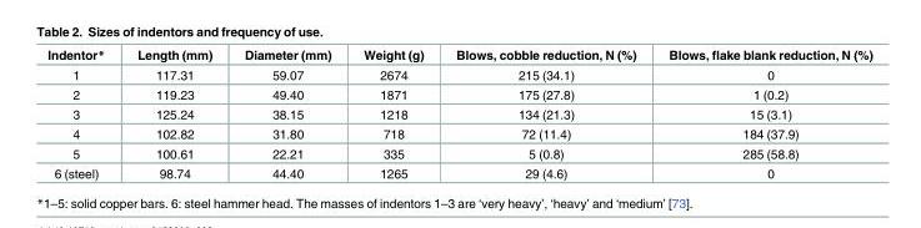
<table><thead><tr><td>Indentor*</td><td>Length (mm)</td><td>Diameter (mm)</td><td>Weight (g)</td><td>Blows, cobble reduction, N (%)</td><td>Blows, flake blank reduction, N (%)</td></tr></thead><tbody><tr><td>1</td><td>117.31</td><td>59.07</td><td>2674</td><td>215 (34.1)</td><td>0</td></tr><tr><td>2</td><td>119.23</td><td>49.40</td><td>1871</td><td>175 (27.8)</td><td>1 (0.2)</td></tr><tr><td>3</td><td>125.24</td><td>38.15</td><td>1218</td><td>134 (21.3)</td><td>15 (3.1)</td></tr><tr><td>4</td><td>102.82</td><td>31.80</td><td>718</td><td>72 (11.4)</td><td>184 (37.9)</td></tr><tr><td>5</td><td>100.61</td><td>22.21</td><td>335</td><td>5 (0.8)</td><td>285 (58.8)</td></tr><tr><td>6 (steel)</td><td>98.74</td><td>44.40</td><td>1265</td><td>29 (4.6)</td><td>0</td></tr></tbody></table>